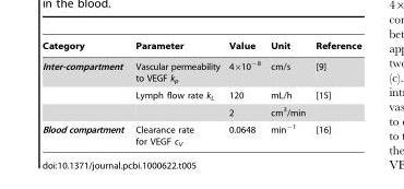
<table><thead><tr><td>Category</td><td>Parameter</td><td>Value</td><td>Unit</td><td>Reference</td></tr></thead><tbody><tr><td rowspan="3">Inter-compartment</td><td>Vascular permeability to VEGF k<sub>p</sub></td><td>4×10<sup>−8</sup></td><td>cm/s</td><td>[9]</td></tr><tr><td>Lymph flow rate k<sub>L</sub></td><td>120</td><td>mL/h</td><td>[15]</td></tr><tr><td></td><td>2</td><td>cm<sup>3</sup>/min</td><td></td></tr><tr><td>Blood compartment</td><td>Clearance rate for VEGF c<sub>V</sub></td><td>0.0648</td><td>min<sup>−1</sup></td><td>[16]</td></tr></tbody></table>